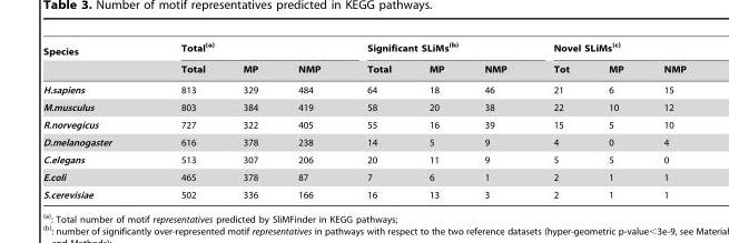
<table><thead><tr><td rowspan="2">Species</td><td colspan="3">Total(a)</td><td colspan="3">Significant SLiMs(b)</td><td colspan="3">Novel SLiMs(c)</td></tr><tr><td>Total</td><td>MP</td><td>NMP</td><td>Total</td><td>MP</td><td>NMP</td><td>Tot</td><td>MP</td><td>NMP</td></tr></thead><tbody><tr><td>H.sapiens</td><td>813</td><td>329</td><td>484</td><td>64</td><td>18</td><td>46</td><td>21</td><td>6</td><td>15</td></tr><tr><td>M.musculus</td><td>803</td><td>384</td><td>419</td><td>58</td><td>20</td><td>38</td><td>22</td><td>10</td><td>12</td></tr><tr><td>R.norvegicus</td><td>727</td><td>322</td><td>405</td><td>55</td><td>16</td><td>39</td><td>15</td><td>5</td><td>10</td></tr><tr><td>D.melanogaster</td><td>616</td><td>378</td><td>238</td><td>14</td><td>5</td><td>9</td><td>4</td><td>0</td><td>4</td></tr><tr><td>C.elegans</td><td>513</td><td>307</td><td>206</td><td>20</td><td>11</td><td>9</td><td>5</td><td>5</td><td>0</td></tr><tr><td>E.coli</td><td>465</td><td>378</td><td>87</td><td>7</td><td>6</td><td>1</td><td>2</td><td>1</td><td>1</td></tr><tr><td>S.cerevisiae</td><td>502</td><td>336</td><td>166</td><td>16</td><td>13</td><td>3</td><td>2</td><td>1</td><td>1</td></tr></tbody></table>